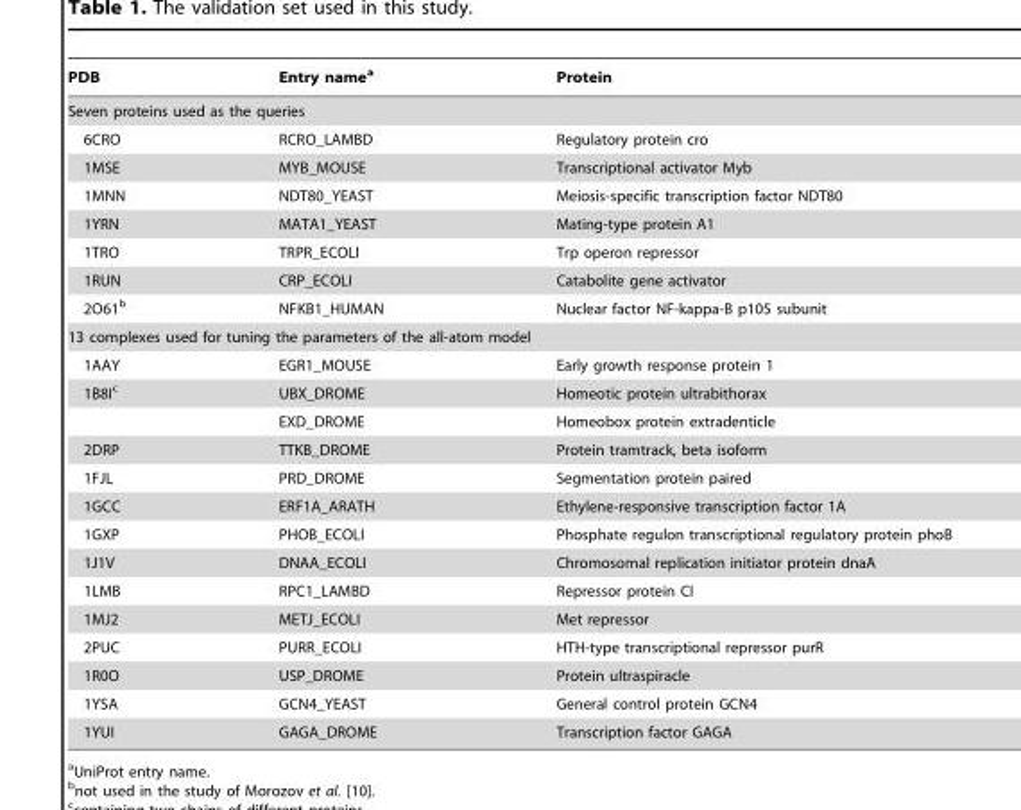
<table><thead><tr><td>PDB</td><td>Entry name<sup>a</sup></td><td>Protein</td></tr></thead><tbody><tr><td colspan="3">Seven proteins used as the queries</td></tr><tr><td>6CRO</td><td>RCRO_LAMBD</td><td>Regulatory protein cro</td></tr><tr><td>1MSE</td><td>MYB_MOUSE</td><td>Transcriptional activator Myb</td></tr><tr><td>1MNN</td><td>NDT80_YEAST</td><td>Meiosis-specific transcription factor NDT80</td></tr><tr><td>1YRN</td><td>MATA1_YEAST</td><td>Mating-type protein A1</td></tr><tr><td>1TRO</td><td>TRPR_ECOLI</td><td>Trp operon repressor</td></tr><tr><td>1RUN</td><td>CRP_ECOLI</td><td>Catabolite gene activator</td></tr><tr><td>2O61<sup>b</sup></td><td>NFKB1_HUMAN</td><td>Nuclear factor NF-kappa-B p105 subunit</td></tr><tr><td colspan="3">13 complexes used for tuning the parameters of the all-atom model</td></tr><tr><td>1AAY</td><td>EGR1_MOUSE</td><td>Early growth response protein 1</td></tr><tr><td rowspan="2">1B8I<sup>c</sup></td><td>UBX_DROME</td><td>Homeotic protein ultrabithorax</td></tr><tr><td>EXD_DROME</td><td>Homeobox protein extradenticle</td></tr><tr><td>2DRP</td><td>TTKB_DROME</td><td>Protein tramtrack, beta isoform</td></tr><tr><td>1FJL</td><td>PRD_DROME</td><td>Segmentation protein paired</td></tr><tr><td>1GCC</td><td>ERF1A_ARATH</td><td>Ethylene-responsive transcription factor 1A</td></tr><tr><td>1GXP</td><td>PHOB_ECOLI</td><td>Phosphate regulon transcriptional regulatory protein phoB</td></tr><tr><td>1J1V</td><td>DNAA_ECOLI</td><td>Chromosomal replication initiator protein dnaA</td></tr><tr><td>1LMB</td><td>RPC1_LAMBD</td><td>Repressor protein CI</td></tr><tr><td>1MJ2</td><td>METJ_ECOLI</td><td>Met repressor</td></tr><tr><td>2PUC</td><td>PURR_ECOLI</td><td>HTH-type transcriptional repressor purR</td></tr><tr><td>1R0O</td><td>USP_DROME</td><td>Protein ultraspiracle</td></tr><tr><td>1YSA</td><td>GCN4_YEAST</td><td>General control protein GCN4</td></tr><tr><td>1YUI</td><td>GAGA_DROME</td><td>Transcription factor GAGA</td></tr></tbody></table>